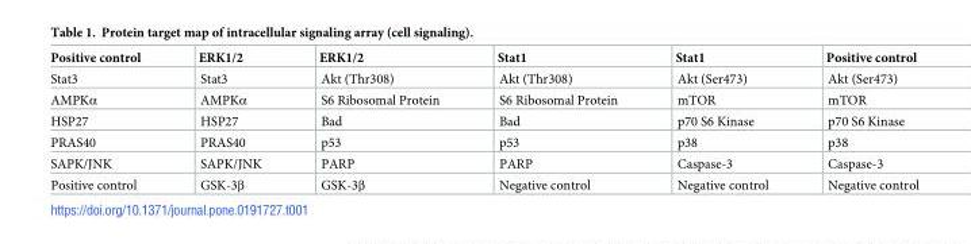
<table><thead><tr><td>Positive control</td><td>ERK1/2</td><td>ERK1/2</td><td>Stat1</td><td>Stat1</td><td>Positive control</td></tr></thead><tbody><tr><td>Stat3</td><td>Stat3</td><td>Akt (Thr308)</td><td>Akt (Thr308)</td><td>Akt (Ser473)</td><td>Akt (Ser473)</td></tr><tr><td>AMPKα</td><td>AMPKα</td><td>S6 Ribosomal Protein</td><td>S6 Ribosomal Protein</td><td>mTOR</td><td>mTOR</td></tr><tr><td>HSP27</td><td>HSP27</td><td>Bad</td><td>Bad</td><td>p70 S6 Kinase</td><td>p70 S6 Kinase</td></tr><tr><td>PRAS40</td><td>PRAS40</td><td>p53</td><td>p53</td><td>p38</td><td>p38</td></tr><tr><td>SAPK/JNK</td><td>SAPK/JNK</td><td>PARP</td><td>PARP</td><td>Caspase-3</td><td>Caspase-3</td></tr><tr><td>Positive control</td><td>GSK-3β</td><td>GSK-3β</td><td>Negative control</td><td>Negative control</td><td>Negative control</td></tr></tbody></table>